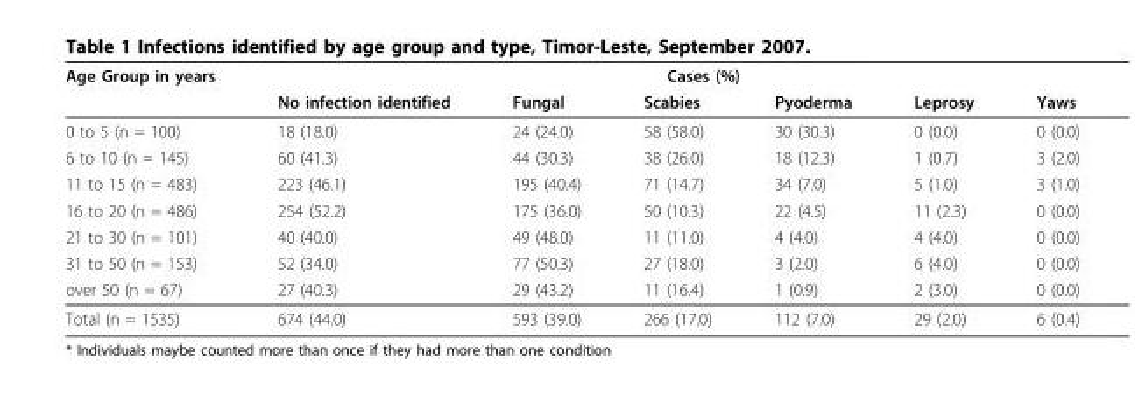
<table><thead><tr><td rowspan="2">Age Group in years</td><td colspan="6">Cases (%)</td></tr><tr><td>No infection identified</td><td>Fungal</td><td>Scabies</td><td>Pyoderma</td><td>Leprosy</td><td>Yaws</td></tr></thead><tbody><tr><td>0 to 5 (n = 100)</td><td>18 (18.0)</td><td>24 (24.0)</td><td>58 (58.0)</td><td>30 (30.3)</td><td>0 (0.0)</td><td>0 (0.0)</td></tr><tr><td>6 to 10 (n = 145)</td><td>60 (41.3)</td><td>44 (30.3)</td><td>38 (26.0)</td><td>18 (12.3)</td><td>1 (0.7)</td><td>3 (2.0)</td></tr><tr><td>11 to 15 (n = 483)</td><td>223 (46.1)</td><td>195 (40.4)</td><td>71 (14.7)</td><td>34 (7.0)</td><td>5 (1.0)</td><td>3 (1.0)</td></tr><tr><td>16 to 20 (n = 486)</td><td>254 (52.2)</td><td>175 (36.0)</td><td>50 (10.3)</td><td>22 (4.5)</td><td>11 (2.3)</td><td>0 (0.0)</td></tr><tr><td>21 to 30 (n = 101)</td><td>40 (40.0)</td><td>49 (48.0)</td><td>11 (11.0)</td><td>4 (4.0)</td><td>4 (4.0)</td><td>0 (0.0)</td></tr><tr><td>31 to 50 (n = 153)</td><td>52 (34.0)</td><td>77 (50.3)</td><td>27 (18.0)</td><td>3 (2.0)</td><td>6 (4.0)</td><td>0 (0.0)</td></tr><tr><td>over 50 (n = 67)</td><td>27 (40.3)</td><td>29 (43.2)</td><td>11 (16.4)</td><td>1 (0.9)</td><td>2 (3.0)</td><td>0 (0.0)</td></tr><tr><td>Total (n = 1535)</td><td>674 (44.0)</td><td>593 (39.0)</td><td>266 (17.0)</td><td>112 (7.0)</td><td>29 (2.0)</td><td>6 (0.4)</td></tr></tbody></table>